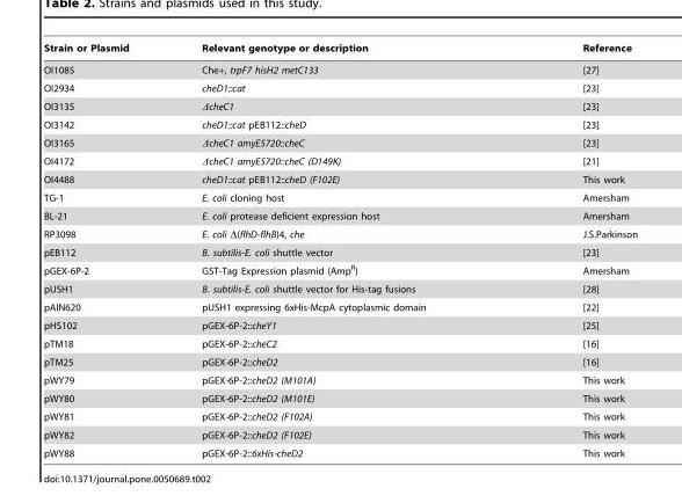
<table><thead><tr><td>Strain or Plasmid</td><td>Relevant genotype or description</td><td>Reference</td></tr></thead><tbody><tr><td>OI1085</td><td>Che+, trpF7 hisH2 metC133</td><td>[27]</td></tr><tr><td>OI2934</td><td>cheD1::cat</td><td>[23]</td></tr><tr><td>OI3135</td><td>ΔcheC1</td><td>[23]</td></tr><tr><td>OI3142</td><td>cheD1::cat pEB112::cheD</td><td>[23]</td></tr><tr><td>OI3165</td><td>ΔcheC1 amyE5720::cheC</td><td>[23]</td></tr><tr><td>OI4172</td><td>ΔcheC1 amyE5720::cheC (D149K)</td><td>[21]</td></tr><tr><td>OI4488</td><td>cheD1::cat pEB112::cheD (F102E)</td><td>This work</td></tr><tr><td>TG-1</td><td>E. coli cloning host</td><td>Amersham</td></tr><tr><td>BL-21</td><td>E. coli protease deficient expression host</td><td>Amersham</td></tr><tr><td>RP3098</td><td>E. coli Δ(flhD-flhB)4, che</td><td>J.S.Parkinson</td></tr><tr><td>pEB112</td><td>B. subtilis-E. coli shuttle vector</td><td>[23]</td></tr><tr><td>pGEX-6P-2</td><td>GST-Tag Expression plasmid (Amp<sup>R</sup>)</td><td>Amersham</td></tr><tr><td>pUSH1</td><td>B. subtilis-E. coli shuttle vector for His-tag fusions</td><td>[28]</td></tr><tr><td>pAIN620</td><td>pUSH1 expressing 6xHis-McpA cytoplasmic domain</td><td>[22]</td></tr><tr><td>pHS102</td><td>pGEX-6P-2::cheY1</td><td>[25]</td></tr><tr><td>pTM18</td><td>pGEX-6P-2::cheC2</td><td>[16]</td></tr><tr><td>pTM25</td><td>pGEX-6P-2::cheD2</td><td>[16]</td></tr><tr><td>pWY79</td><td>pGEX-6P-2::cheD2 (M101A)</td><td>This work</td></tr><tr><td>pWY80</td><td>pGEX-6P-2::cheD2 (M101E)</td><td>This work</td></tr><tr><td>pWY81</td><td>pGEX-6P-2::cheD2 (F102A)</td><td>This work</td></tr><tr><td>pWY82</td><td>pGEX-6P-2::cheD2 (F102E)</td><td>This work</td></tr><tr><td>pWY88</td><td>pGEX-6P-2::6xHis-cheD2</td><td>This work</td></tr></tbody></table>